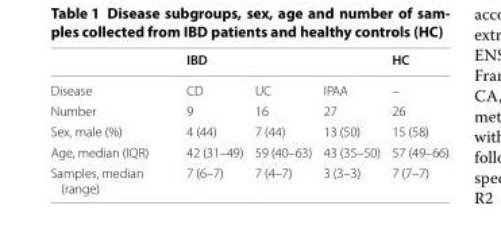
<table><thead><tr><td rowspan="2">Disease</td><td colspan="3">IBD</td><td rowspan="2">HC –</td></tr><tr><td>CD</td><td>UC</td><td>IPAA</td></tr></thead><tbody><tr><td>Number</td><td>9</td><td>16</td><td>27</td><td>26</td></tr><tr><td>Sex, male (%)</td><td>4 (44)</td><td>7 (44)</td><td>13 (50)</td><td>15 (58)</td></tr><tr><td>Age, median (IQR)</td><td>42 (31–49)</td><td>59 (40–63)</td><td>43 (35–50)</td><td>57 (49–66)</td></tr><tr><td>Samples, median (range)</td><td>7 (6–7)</td><td>7 (4–7)</td><td>3 (3–3)</td><td>7 (7–7)</td></tr></tbody></table>